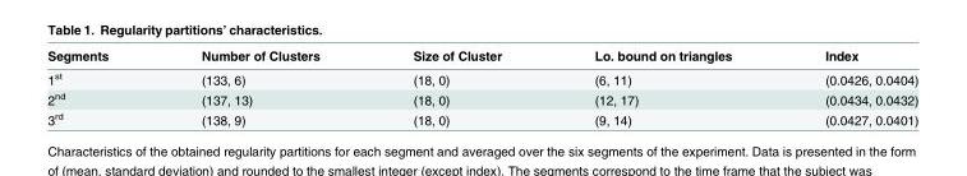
<table><thead><tr><td>Segments</td><td>Number of Clusters</td><td>Size of Cluster</td><td>Lo. bound on triangles</td><td>Index</td></tr></thead><tbody><tr><td>1<sup>st</sup></td><td>(133, 6)</td><td>(18, 0)</td><td>(6, 11)</td><td>(0.0426, 0.0404)</td></tr><tr><td>2<sup>nd</sup></td><td>(137, 13)</td><td>(18, 0)</td><td>(12, 17)</td><td>(0.0434, 0.0432)</td></tr><tr><td>3<sup>rd</sup></td><td>(138, 9)</td><td>(18, 0)</td><td>(9, 14)</td><td>(0.0427, 0.0401)</td></tr></tbody></table>